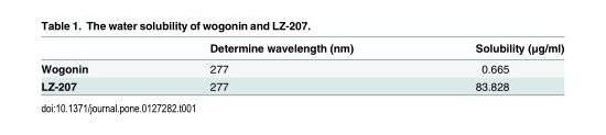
<table><thead><tr><td></td><td>Determine wavelength (nm)</td><td>Solubility (μg/ml)</td></tr></thead><tbody><tr><td>Wogonin</td><td>277</td><td>0.665</td></tr><tr><td>LZ-207</td><td>277</td><td>83.828</td></tr></tbody></table>